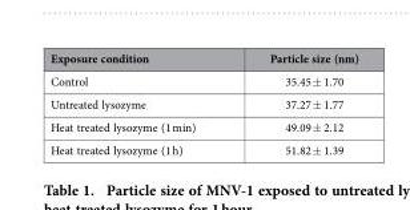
<table><thead><tr><td>Exposure condition</td><td>Particle size (nm)</td></tr></thead><tbody><tr><td>Control</td><td>35.45 ± 1.70</td></tr><tr><td>Untreated lysozyme</td><td>37.27 ± 1.77</td></tr><tr><td>Heat treated lysozyme (1 min)</td><td>49.09 ± 2.12</td></tr><tr><td>Heat treated lysozyme (1 h)</td><td>51.82 ± 1.39</td></tr></tbody></table>